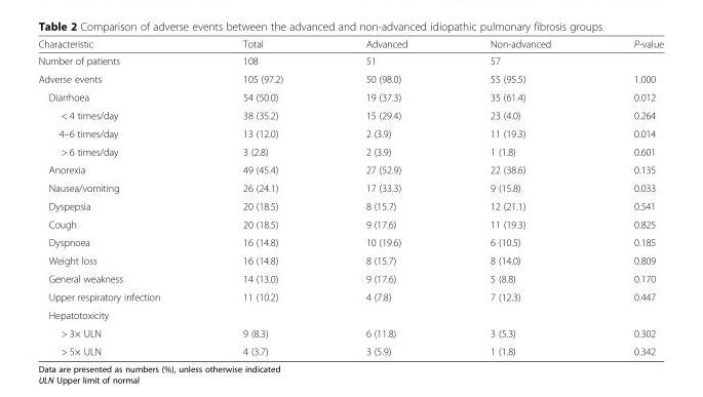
<table><thead><tr><td>Characteristic</td><td>Total</td><td>Advanced</td><td>Non-advanced</td><td>P-value</td></tr></thead><tbody><tr><td>Number of patients</td><td>108</td><td>51</td><td>57</td><td></td></tr><tr><td>Adverse events</td><td>105 (97.2)</td><td>50 (98.0)</td><td>55 (95.5)</td><td>1.000</td></tr><tr><td>Diarrhoea</td><td>54 (50.0)</td><td>19 (37.3)</td><td>35 (61.4)</td><td>0.012</td></tr><tr><td>&lt; 4 times/day</td><td>38 (35.2)</td><td>15 (29.4)</td><td>23 (4.0)</td><td>0.264</td></tr><tr><td>4–6 times/day</td><td>13 (12.0)</td><td>2 (3.9)</td><td>11 (19.3)</td><td>0.014</td></tr><tr><td>&gt; 6 times/day</td><td>3 (2.8)</td><td>2 (3.9)</td><td>1 (1.8)</td><td>0.601</td></tr><tr><td>Anorexia</td><td>49 (45.4)</td><td>27 (52.9)</td><td>22 (38.6)</td><td>0.135</td></tr><tr><td>Nausea/vomiting</td><td>26 (24.1)</td><td>17 (33.3)</td><td>9 (15.8)</td><td>0.033</td></tr><tr><td>Dyspepsia</td><td>20 (18.5)</td><td>8 (15.7)</td><td>12 (21.1)</td><td>0.541</td></tr><tr><td>Cough</td><td>20 (18.5)</td><td>9 (17.6)</td><td>11 (19.3)</td><td>0.825</td></tr><tr><td>Dyspnoea</td><td>16 (14.8)</td><td>10 (19.6)</td><td>6 (10.5)</td><td>0.185</td></tr><tr><td>Weight loss</td><td>16 (14.8)</td><td>8 (15.7)</td><td>8 (14.0)</td><td>0.809</td></tr><tr><td>General weakness</td><td>14 (13.0)</td><td>9 (17.6)</td><td>5 (8.8)</td><td>0.170</td></tr><tr><td>Upper respiratory infection</td><td>11 (10.2)</td><td>4 (7.8)</td><td>7 (12.3)</td><td>0.447</td></tr><tr><td colspan="5">Hepatotoxicity</td></tr><tr><td>&gt; 3× ULN</td><td>9 (8.3)</td><td>6 (11.8)</td><td>3 (5.3)</td><td>0.302</td></tr><tr><td>&gt; 5× ULN</td><td>4 (3.7)</td><td>3 (5.9)</td><td>1 (1.8)</td><td>0.342</td></tr></tbody></table>